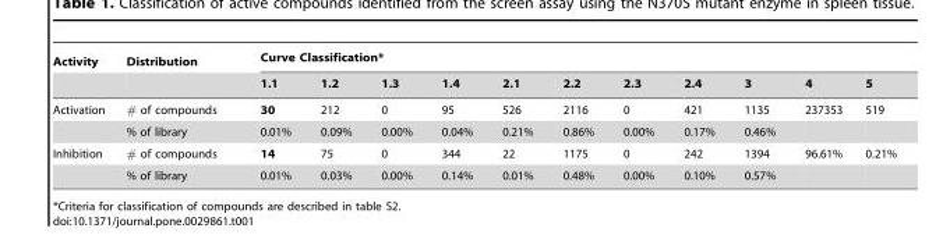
<table><thead><tr><td rowspan="2">Activity</td><td rowspan="2">Distribution</td><td colspan="11">Curve Classification*</td></tr><tr><td>1.1</td><td>1.2</td><td>1.3</td><td>1.4</td><td>2.1</td><td>2.2</td><td>2.3</td><td>2.4</td><td>3</td><td>4</td><td>5</td></tr></thead><tbody><tr><td rowspan="2">Activation</td><td># of compounds</td><td>30</td><td>212</td><td>0</td><td>95</td><td>526</td><td>2116</td><td>0</td><td>421</td><td>1135</td><td>237353</td><td>519</td></tr><tr><td>% of library</td><td>0.01%</td><td>0.09%</td><td>0.00%</td><td>0.04%</td><td>0.21%</td><td>0.86%</td><td>0.00%</td><td>0.17%</td><td>0.46%</td><td></td><td></td></tr><tr><td rowspan="2">Inhibition</td><td># of compounds</td><td>14</td><td>75</td><td>0</td><td>344</td><td>22</td><td>1175</td><td>0</td><td>242</td><td>1394</td><td>96.61%</td><td>0.21%</td></tr><tr><td>% of library</td><td>0.01%</td><td>0.03%</td><td>0.00%</td><td>0.14%</td><td>0.01%</td><td>0.48%</td><td>0.00%</td><td>0.10%</td><td>0.57%</td><td></td><td></td></tr></tbody></table>